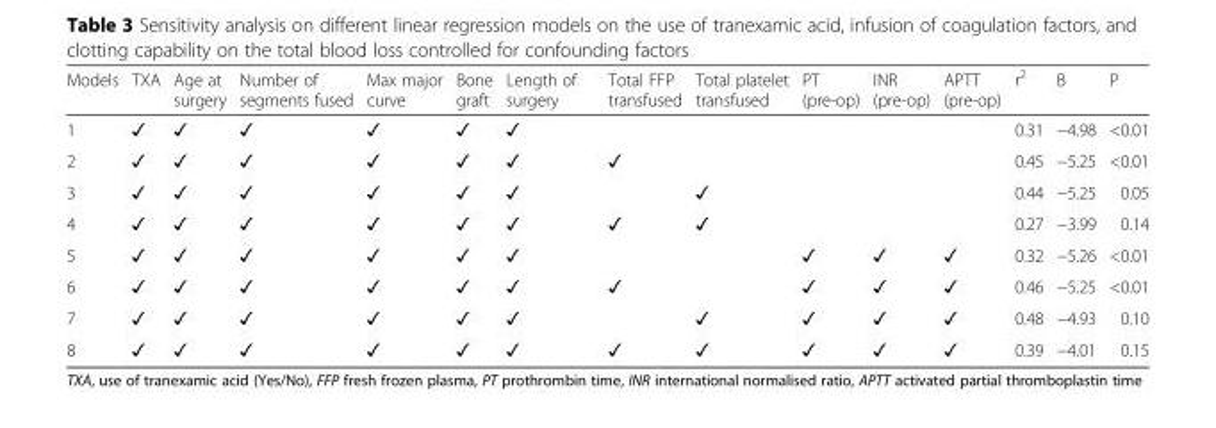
<table><thead><tr><td>Models</td><td>TXA</td><td>Age at surgery</td><td>Number of segments fused</td><td>Max major curve</td><td>Bone graft</td><td>Length of surgery</td><td>Total FFP transfused</td><td>Total platelet transfused</td><td>PT (pre-op)</td><td>INR (pre-op)</td><td>APTT (pre-op)</td><td>r<sup>2</sup></td><td>Β</td><td>P</td></tr></thead><tbody><tr><td>1</td><td>✓</td><td>✓</td><td>✓</td><td>✓</td><td>✓</td><td>✓</td><td></td><td></td><td></td><td></td><td></td><td>0.31</td><td>−4.98</td><td>&lt;0.01</td></tr><tr><td>2</td><td>✓</td><td>✓</td><td>✓</td><td>✓</td><td>✓</td><td>✓</td><td>✓</td><td></td><td></td><td></td><td></td><td>0.45</td><td>−5.25</td><td>&lt;0.01</td></tr><tr><td>3</td><td>✓</td><td>✓</td><td>✓</td><td>✓</td><td>✓</td><td>✓</td><td></td><td>✓</td><td></td><td></td><td></td><td>0.44</td><td>−5.25</td><td>0.05</td></tr><tr><td>4</td><td>✓</td><td>✓</td><td>✓</td><td>✓</td><td>✓</td><td>✓</td><td>✓</td><td>✓</td><td></td><td></td><td></td><td>0.27</td><td>−3.99</td><td>0.14</td></tr><tr><td>5</td><td>✓</td><td>✓</td><td>✓</td><td>✓</td><td>✓</td><td>✓</td><td></td><td></td><td>✓</td><td>✓</td><td>✓</td><td>0.32</td><td>−5.26</td><td>&lt;0.01</td></tr><tr><td>6</td><td>✓</td><td>✓</td><td>✓</td><td>✓</td><td>✓</td><td>✓</td><td>✓</td><td></td><td>✓</td><td>✓</td><td>✓</td><td>0.46</td><td>−5.25</td><td>&lt;0.01</td></tr><tr><td>7</td><td>✓</td><td>✓</td><td>✓</td><td>✓</td><td>✓</td><td>✓</td><td></td><td>✓</td><td>✓</td><td>✓</td><td>✓</td><td>0.48</td><td>−4.93</td><td>0.10</td></tr><tr><td>8</td><td>✓</td><td>✓</td><td>✓</td><td>✓</td><td>✓</td><td>✓</td><td>✓</td><td>✓</td><td>✓</td><td>✓</td><td>✓</td><td>0.39</td><td>−4.01</td><td>0.15</td></tr></tbody></table>